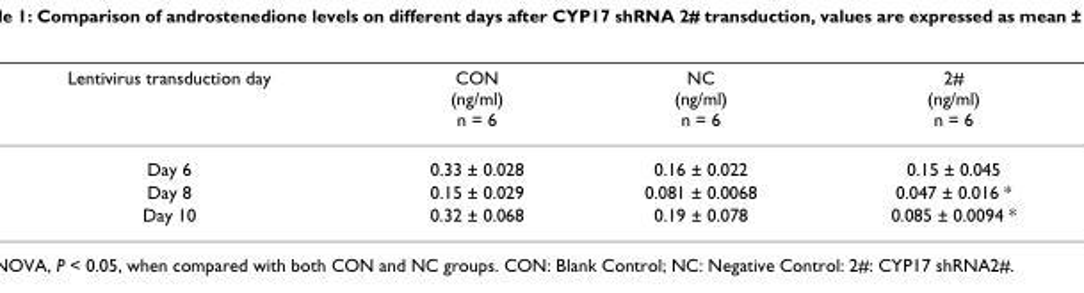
<table><thead><tr><td>Lentivirus transduction day</td><td>CON (ng/ml) n = 6</td><td>NC (ng/ml) n = 6</td><td>2# (ng/ml) n = 6</td></tr></thead><tbody><tr><td>Day 6</td><td>0.33 ± 0.028</td><td>0.16 ± 0.022</td><td>0.15 ± 0.045</td></tr><tr><td>Day 8</td><td>0.15 ± 0.029</td><td>0.081 ± 0.0068</td><td>0.047 ± 0.016 *</td></tr><tr><td>Day 10</td><td>0.32 ± 0.068</td><td>0.19 ± 0.078</td><td>0.085 ± 0.0094 *</td></tr></tbody></table>